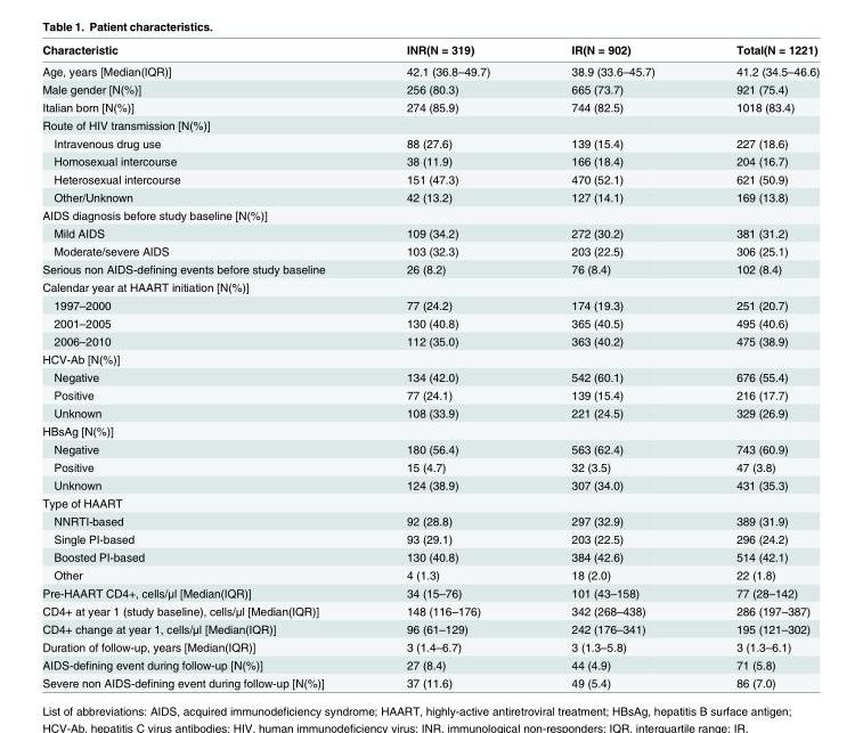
<table><thead><tr><td>Characteristic</td><td>INR(N = 319)</td><td>IR(N = 902)</td><td>Total(N = 1221)</td></tr></thead><tbody><tr><td>Age, years [Median(IQR)]</td><td>42.1 (36.8–49.7)</td><td>38.9 (33.6–45.7)</td><td>41.2 (34.5–46.6)</td></tr><tr><td>Male gender [N(%)]</td><td>256 (80.3)</td><td>665 (73.7)</td><td>921 (75.4)</td></tr><tr><td>Italian born [N(%)]</td><td>274 (85.9)</td><td>744 (82.5)</td><td>1018 (83.4)</td></tr><tr><td colspan="4">Route of HIV transmission [N(%)]</td></tr><tr><td>Intravenous drug use</td><td>88 (27.6)</td><td>139 (15.4)</td><td>227 (18.6)</td></tr><tr><td>Homosexual intercourse</td><td>38 (11.9)</td><td>166 (18.4)</td><td>204 (16.7)</td></tr><tr><td>Heterosexual intercourse</td><td>151 (47.3)</td><td>470 (52.1)</td><td>621 (50.9)</td></tr><tr><td>Other/Unknown</td><td>42 (13.2)</td><td>127 (14.1)</td><td>169 (13.8)</td></tr><tr><td colspan="4">AIDS diagnosis before study baseline [N(%)]</td></tr><tr><td>Mild AIDS</td><td>109 (34.2)</td><td>272 (30.2)</td><td>381 (31.2)</td></tr><tr><td>Moderate/severe AIDS</td><td>103 (32.3)</td><td>203 (22.5)</td><td>306 (25.1)</td></tr><tr><td>Serious non AIDS-defining events before study baseline</td><td>26 (8.2)</td><td>76 (8.4)</td><td>102 (8.4)</td></tr><tr><td colspan="4">Calendar year at HAART initiation [N(%)]</td></tr><tr><td>1997–2000</td><td>77 (24.2)</td><td>174 (19.3)</td><td>251 (20.7)</td></tr><tr><td>2001–2005</td><td>130 (40.8)</td><td>365 (40.5)</td><td>495 (40.6)</td></tr><tr><td>2006–2010</td><td>112 (35.0)</td><td>363 (40.2)</td><td>475 (38.9)</td></tr><tr><td colspan="4">HCV-Ab [N(%)]</td></tr><tr><td>Negative</td><td>134 (42.0)</td><td>542 (60.1)</td><td>676 (55.4)</td></tr><tr><td>Positive</td><td>77 (24.1)</td><td>139 (15.4)</td><td>216 (17.7)</td></tr><tr><td>Unknown</td><td>108 (33.9)</td><td>221 (24.5)</td><td>329 (26.9)</td></tr><tr><td colspan="4">HBsAg [N(%)]</td></tr><tr><td>Negative</td><td>180 (56.4)</td><td>563 (62.4)</td><td>743 (60.9)</td></tr><tr><td>Positive</td><td>15 (4.7)</td><td>32 (3.5)</td><td>47 (3.8)</td></tr><tr><td>Unknown</td><td>124 (38.9)</td><td>307 (34.0)</td><td>431 (35.3)</td></tr><tr><td colspan="4">Type of HAART</td></tr><tr><td>NNRTI-based</td><td>92 (28.8)</td><td>297 (32.9)</td><td>389 (31.9)</td></tr><tr><td>Single PI-based</td><td>93 (29.1)</td><td>203 (22.5)</td><td>296 (24.2)</td></tr><tr><td>Boosted PI-based</td><td>130 (40.8)</td><td>384 (42.6)</td><td>514 (42.1)</td></tr><tr><td>Other</td><td>4 (1.3)</td><td>18 (2.0)</td><td>22 (1.8)</td></tr><tr><td>Pre-HAART CD4+, cells/μl [Median(IQR)]</td><td>34 (15–76)</td><td>101 (43–158)</td><td>77 (28–142)</td></tr><tr><td>CD4+ at year 1 (study baseline), cells/μl [Median(IQR)]</td><td>148 (116–176)</td><td>342 (268–438)</td><td>286 (197–387)</td></tr><tr><td>CD4+ change at year 1, cells/μl [Median(IQR)]</td><td>96 (61–129)</td><td>242 (176–341)</td><td>195 (121–302)</td></tr><tr><td>Duration of follow-up, years [Median(IQR)]</td><td>3 (1.4–6.7)</td><td>3 (1.3–5.8)</td><td>3 (1.3–6.1)</td></tr><tr><td>AIDS-defining event during follow-up [N(%)]</td><td>27 (8.4)</td><td>44 (4.9)</td><td>71 (5.8)</td></tr><tr><td>Severe non AIDS-defining event during follow-up [N(%)]</td><td>37 (11.6)</td><td>49 (5.4)</td><td>86 (7.0)</td></tr></tbody></table>